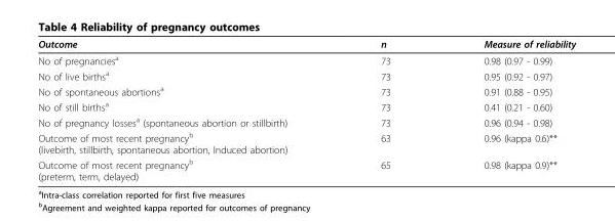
<table><thead><tr><td>Outcome</td><td>n</td><td>Measure of reliability</td></tr></thead><tbody><tr><td>No of pregnancies<sup>a</sup></td><td>73</td><td>0.98 (0.97 - 0.99)</td></tr><tr><td>No of live births<sup>a</sup></td><td>73</td><td>0.95 (0.92 - 0.97)</td></tr><tr><td>No of spontaneous abortions<sup>a</sup></td><td>73</td><td>0.91 (0.88 - 0.95)</td></tr><tr><td>No of still births<sup>a</sup></td><td>73</td><td>0.41 (0.21 - 0.60)</td></tr><tr><td>No of pregnancy losses<sup>a</sup> (spontaneous abortion or stillbirth)</td><td>73</td><td>0.96 (0.94 - 0.98)</td></tr><tr><td>Outcome of most recent pregnancy<sup>b</sup> (livebirth, stillbirth, spontaneous abortion, Induced abortion)</td><td>63</td><td>0.96 (kappa 0.6)**</td></tr><tr><td>Outcome of most recent pregnancy<sup>b</sup> (preterm, term, delayed)</td><td>65</td><td>0.98 (kappa 0.9)**</td></tr></tbody></table>